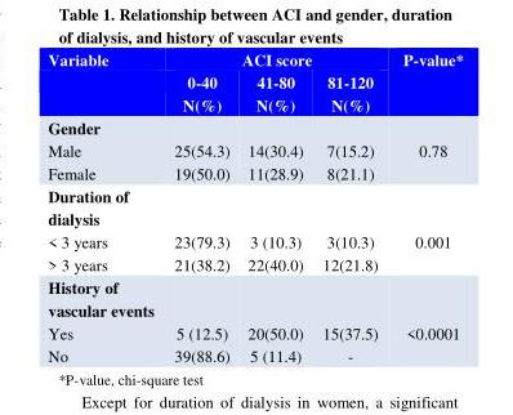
<table><thead><tr><td rowspan="2">Variable</td><td colspan="3">ACI score</td><td rowspan="2">P-value*</td></tr><tr><td>0-40 N(%)</td><td>41-80 N(%)</td><td>81-120 N(%)</td></tr></thead><tbody><tr><td colspan="5">Gender</td></tr><tr><td>Male Female</td><td>25(54.3) 19(50.0)</td><td>14(30.4) 11(28.9)</td><td>7(15.2) 8(21.1)</td><td>0.78</td></tr><tr><td colspan="5">Duration of dialysis</td></tr><tr><td>&lt; 3 years &gt; 3 years</td><td>23(79.3) 21(38.2)</td><td>3 (10.3) 22(40.0)</td><td>3(10.3) 12(21.8)</td><td>0.001</td></tr><tr><td colspan="5">History of vascular events</td></tr><tr><td>Yes No</td><td>5 (12.5) 39(88.6)</td><td>20(50.0) 5 (11.4)</td><td>15(37.5) -</td><td>&lt;0.0001</td></tr></tbody></table>